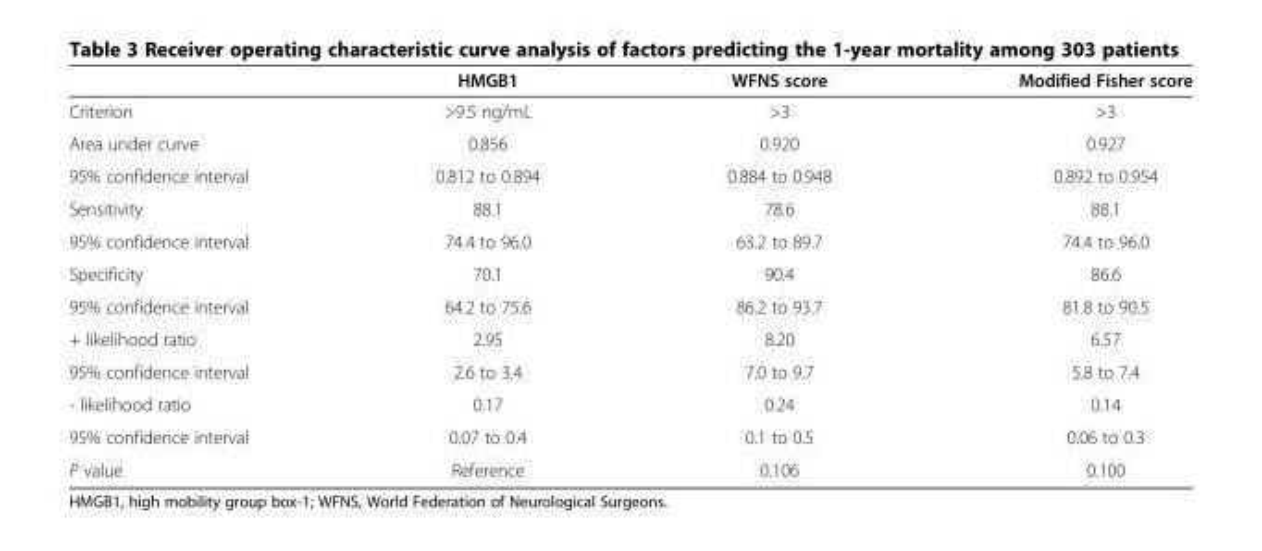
<table><thead><tr><td></td><td>HMGB1</td><td>WFNS score</td><td>Modified Fisher score</td></tr></thead><tbody><tr><td>Criterion</td><td>&gt;9.5 ng/mL</td><td>&gt;3</td><td>&gt;3</td></tr><tr><td>Area under curve</td><td>0.856</td><td>0.920</td><td>0.927</td></tr><tr><td>95% confidence interval</td><td>0.812 to 0.894</td><td>0.884 to 0.948</td><td>0.892 to 0.954</td></tr><tr><td>Sensitivity</td><td>88.1</td><td>78.6</td><td>88.1</td></tr><tr><td>95% confidence interval</td><td>74.4 to 96.0</td><td>63.2 to 89.7</td><td>74.4 to 96.0</td></tr><tr><td>Specificity</td><td>70.1</td><td>90.4</td><td>86.6</td></tr><tr><td>95% confidence interval</td><td>64.2 to 75.6</td><td>86.2 to 93.7</td><td>81.8 to 90.5</td></tr><tr><td>+ likelihood ratio</td><td>2.95</td><td>8.20</td><td>6.57</td></tr><tr><td>95% confidence interval</td><td>2.6 to 3.4</td><td>7.0 to 9.7</td><td>5.8 to 7.4</td></tr><tr><td>- likelihood ratio</td><td>0.17</td><td>0.24</td><td>0.14</td></tr><tr><td>95% confidence interval</td><td>0.07 to 0.4</td><td>0.1 to 0.5</td><td>0.06 to 0.3</td></tr><tr><td>P value</td><td>Reference</td><td>0.106</td><td>0.100</td></tr></tbody></table>